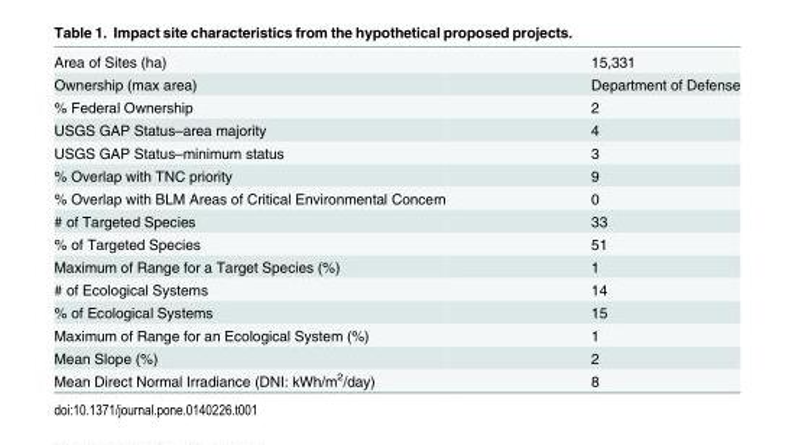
<table><tbody><tr><td>Area of Sites (ha)</td><td>15,331</td></tr><tr><td>Ownership (max area)</td><td>Department of Defense</td></tr><tr><td>% Federal Ownership</td><td>2</td></tr><tr><td>USGS GAP Status–area majority</td><td>4</td></tr><tr><td>USGS GAP Status–minimum status</td><td>3</td></tr><tr><td>% Overlap with TNC priority</td><td>9</td></tr><tr><td>% Overlap with BLM Areas of Critical Environmental Concern</td><td>0</td></tr><tr><td># of Targeted Species</td><td>33</td></tr><tr><td>% of Targeted Species</td><td>51</td></tr><tr><td>Maximum of Range for a Target Species (%)</td><td>1</td></tr><tr><td># of Ecological Systems</td><td>14</td></tr><tr><td>% of Ecological Systems</td><td>15</td></tr><tr><td>Maximum of Range for an Ecological System (%)</td><td>1</td></tr><tr><td>Mean Slope (%)</td><td>2</td></tr><tr><td>Mean Direct Normal Irradiance (DNI: kWh/m<sup>2</sup>/day)</td><td>8</td></tr></tbody></table>